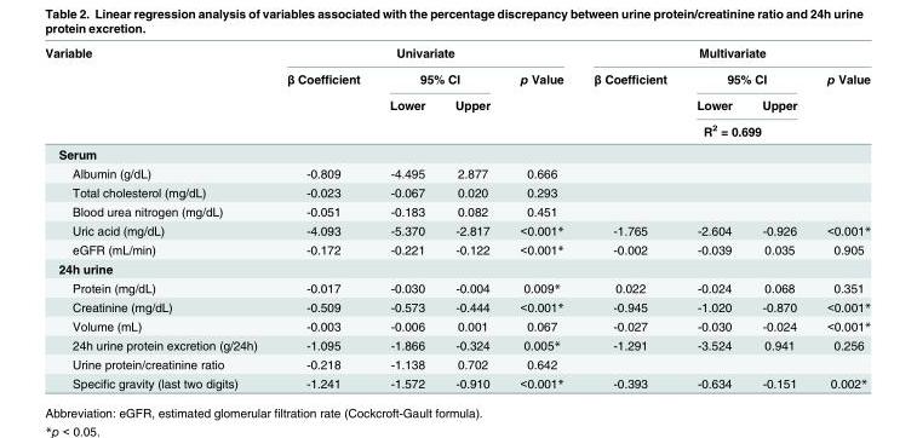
<table><thead><tr><td rowspan="4">Variable</td><td colspan="4">Univariate</td><td colspan="4">Multivariate</td></tr><tr><td rowspan="3">β Coefficient</td><td colspan="2">95% CI</td><td rowspan="3">p Value</td><td rowspan="2">β Coefficient</td><td colspan="2">95% CI</td><td rowspan="2">p Value</td></tr><tr><td rowspan="2">Lower</td><td rowspan="2">Upper</td><td>Lower</td><td>Upper</td></tr><tr><td colspan="4">R<sup>2</sup> = 0.699</td></tr></thead><tbody><tr><td colspan="9">Serum</td></tr><tr><td>Albumin (g/dL)</td><td>-0.809</td><td>-4.495</td><td>2.877</td><td>0.666</td><td></td><td></td><td></td><td></td></tr><tr><td>Total cholesterol (mg/dL)</td><td>-0.023</td><td>-0.067</td><td>0.020</td><td>0.293</td><td></td><td></td><td></td><td></td></tr><tr><td>Blood urea nitrogen (mg/dL)</td><td>-0.051</td><td>-0.183</td><td>0.082</td><td>0.451</td><td></td><td></td><td></td><td></td></tr><tr><td>Uric acid (mg/dL)</td><td>-4.093</td><td>-5.370</td><td>-2.817</td><td>&lt;0.001*</td><td>-1.765</td><td>-2.604</td><td>-0.926</td><td>&lt;0.001*</td></tr><tr><td>eGFR (mL/min)</td><td>-0.172</td><td>-0.221</td><td>-0.122</td><td>&lt;0.001*</td><td>-0.002</td><td>-0.039</td><td>0.035</td><td>0.905</td></tr><tr><td colspan="9">24h urine</td></tr><tr><td>Protein (mg/dL)</td><td>-0.017</td><td>-0.030</td><td>-0.004</td><td>0.009*</td><td>0.022</td><td>-0.024</td><td>0.068</td><td>0.351</td></tr><tr><td>Creatinine (mg/dL)</td><td>-0.509</td><td>-0.573</td><td>-0.444</td><td>&lt;0.001*</td><td>-0.945</td><td>-1.020</td><td>-0.870</td><td>&lt;0.001*</td></tr><tr><td>Volume (mL)</td><td>-0.003</td><td>-0.006</td><td>0.001</td><td>0.067</td><td>-0.027</td><td>-0.030</td><td>-0.024</td><td>&lt;0.001*</td></tr><tr><td>24h urine protein excretion (g/24h)</td><td>-1.095</td><td>-1.866</td><td>-0.324</td><td>0.005*</td><td>-1.291</td><td>-3.524</td><td>0.941</td><td>0.256</td></tr><tr><td>Urine protein/creatinine ratio</td><td>-0.218</td><td>-1.138</td><td>0.702</td><td>0.642</td><td></td><td></td><td></td><td></td></tr><tr><td>Specific gravity (last two digits)</td><td>-1.241</td><td>-1.572</td><td>-0.910</td><td>&lt;0.001*</td><td>-0.393</td><td>-0.634</td><td>-0.151</td><td>0.002*</td></tr></tbody></table>